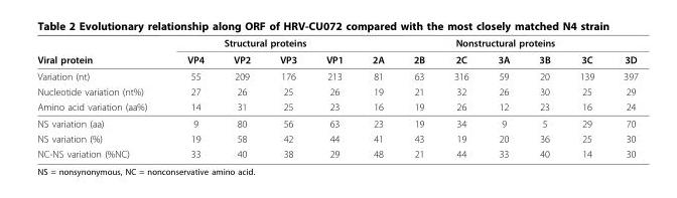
<table><thead><tr><td rowspan="2">Viral protein</td><td colspan="4">Structural proteins</td><td colspan="7">Nonstructural proteins</td></tr><tr><td>VP4</td><td>VP2</td><td>VP3</td><td>VP1</td><td>2A</td><td>2B</td><td>2C</td><td>3A</td><td>3B</td><td>3C</td><td>3D</td></tr></thead><tbody><tr><td>Variation (nt)</td><td>55</td><td>209</td><td>176</td><td>213</td><td>81</td><td>63</td><td>316</td><td>59</td><td>20</td><td>139</td><td>397</td></tr><tr><td>Nucleotide variation (nt%)</td><td>27</td><td>26</td><td>25</td><td>26</td><td>19</td><td>21</td><td>32</td><td>26</td><td>30</td><td>25</td><td>29</td></tr><tr><td>Amino acid variation (aa%)</td><td>14</td><td>31</td><td>25</td><td>23</td><td>16</td><td>19</td><td>26</td><td>12</td><td>23</td><td>16</td><td>24</td></tr><tr><td>NS variation (aa)</td><td>9</td><td>80</td><td>56</td><td>63</td><td>23</td><td>19</td><td>34</td><td>9</td><td>5</td><td>29</td><td>70</td></tr><tr><td>NS variation (%)</td><td>19</td><td>58</td><td>42</td><td>44</td><td>41</td><td>43</td><td>19</td><td>20</td><td>36</td><td>25</td><td>30</td></tr><tr><td>NC-NS variation (%NC)</td><td>33</td><td>40</td><td>38</td><td>29</td><td>48</td><td>21</td><td>44</td><td>33</td><td>40</td><td>14</td><td>30</td></tr></tbody></table>